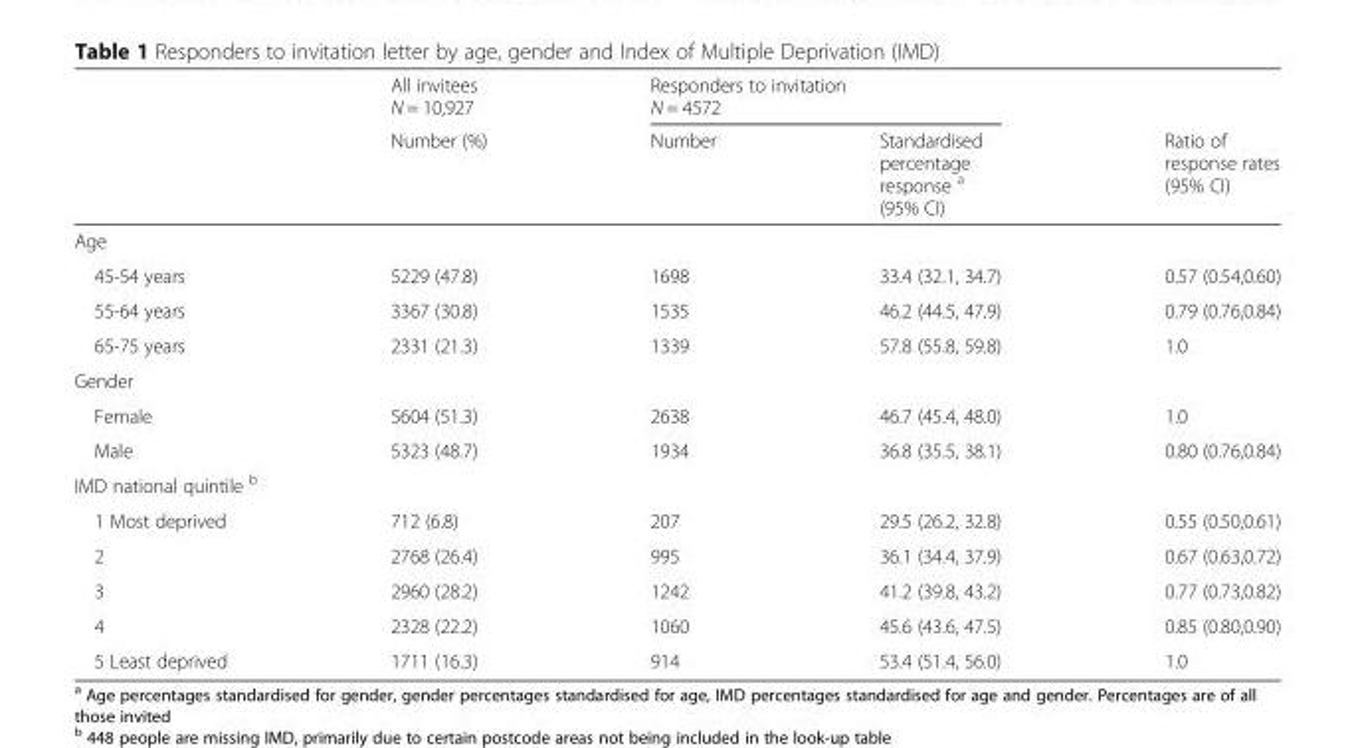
<table><thead><tr><td rowspan="2"></td><td rowspan="2">All invitees N = 10,927 Number (%)</td><td colspan="2">Responders to invitation N = 4572</td><td rowspan="2">Ratio of response rates (95% CI)</td></tr><tr><td>Number</td><td>Standardised percentage response <sup>a</sup> (95% CI)</td></tr></thead><tbody><tr><td colspan="5">Age</td></tr><tr><td>45-54 years</td><td>5229 (47.8)</td><td>1698</td><td>33.4 (32.1, 34.7)</td><td>0.57 (0.54,0.60)</td></tr><tr><td>55-64 years</td><td>3367 (30.8)</td><td>1535</td><td>46.2 (44.5, 47.9)</td><td>0.79 (0.76,0.84)</td></tr><tr><td>65-75 years</td><td>2331 (21.3)</td><td>1339</td><td>57.8 (55.8, 59.8)</td><td>1.0</td></tr><tr><td colspan="5">Gender</td></tr><tr><td>Female</td><td>5604 (51.3)</td><td>2638</td><td>46.7 (45.4, 48.0)</td><td>1.0</td></tr><tr><td>Male</td><td>5323 (48.7)</td><td>1934</td><td>36.8 (35.5, 38.1)</td><td>0.80 (0.76,0.84)</td></tr><tr><td colspan="5">IMD national quintile <sup>b</sup></td></tr><tr><td>1 Most deprived</td><td>712 (6.8)</td><td>207</td><td>29.5 (26.2, 32.8)</td><td>0.55 (0.50,0.61)</td></tr><tr><td>2</td><td>2768 (26.4)</td><td>995</td><td>36.1 (34.4, 37.9)</td><td>0.67 (0.63,0.72)</td></tr><tr><td>3</td><td>2960 (28.2)</td><td>1242</td><td>41.2 (39.8, 43.2)</td><td>0.77 (0.73,0.82)</td></tr><tr><td>4</td><td>2328 (22.2)</td><td>1060</td><td>45.6 (43.6, 47.5)</td><td>0.85 (0.80,0.90)</td></tr><tr><td>5 Least deprived</td><td>1711 (16.3)</td><td>914</td><td>53.4 (51.4, 56.0)</td><td>1.0</td></tr></tbody></table>